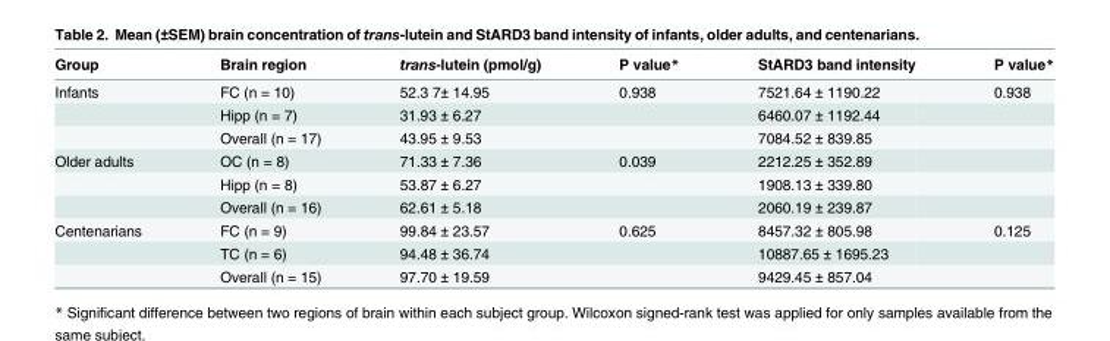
<table><thead><tr><td>Group</td><td>Brain region</td><td>trans-lutein (pmol/g)</td><td>P value*</td><td>StARD3 band intensity</td><td>P value*</td></tr></thead><tbody><tr><td rowspan="3">Infants</td><td>FC (n = 10)</td><td>52.3 7± 14.95</td><td>0.938</td><td>7521.64 ± 1190.22</td><td>0.938</td></tr><tr><td>Hipp (n = 7)</td><td>31.93 ± 6.27</td><td></td><td>6460.07 ± 1192.44</td><td></td></tr><tr><td>Overall (n = 17)</td><td>43.95 ± 9.53</td><td></td><td>7084.52 ± 839.85</td><td></td></tr><tr><td rowspan="3">Older adults</td><td>OC (n = 8)</td><td>71.33 ± 7.36</td><td>0.039</td><td>2212.25 ± 352.89</td><td></td></tr><tr><td>Hipp (n = 8)</td><td>53.87 ± 6.27</td><td></td><td>1908.13 ± 339.80</td><td></td></tr><tr><td>Overall (n = 16)</td><td>62.61 ± 5.18</td><td></td><td>2060.19 ± 239.87</td><td></td></tr><tr><td rowspan="3">Centenarians</td><td>FC (n = 9)</td><td>99.84 ± 23.57</td><td>0.625</td><td>8457.32 ± 805.98</td><td>0.125</td></tr><tr><td>TC (n = 6)</td><td>94.48 ± 36.74</td><td></td><td>10887.65 ± 1695.23</td><td></td></tr><tr><td>Overall (n = 15)</td><td>97.70 ± 19.59</td><td></td><td>9429.45 ± 857.04</td><td></td></tr></tbody></table>